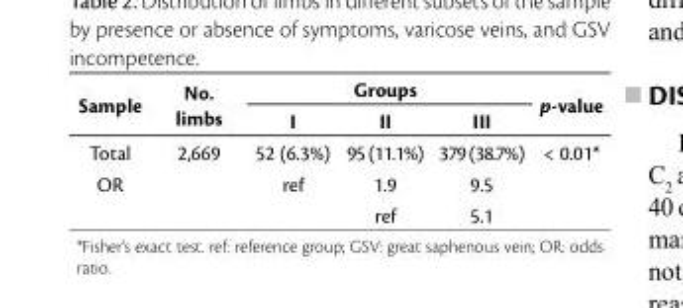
<table><thead><tr><td rowspan="2">Sample</td><td rowspan="2">No. limbs</td><td rowspan="2">I</td><td rowspan="2">Groups II</td><td rowspan="2">III</td><td rowspan="2">p-value</td></tr><tr></tr></thead><tbody><tr><td>Total</td><td>2,669</td><td>52 (6.3%)</td><td>95 (11.1%)</td><td>379 (38.7%)</td><td>&lt; 0.01*</td></tr><tr><td rowspan="2">OR</td><td></td><td>ref</td><td>1.9</td><td>9.5</td><td></td></tr><tr><td></td><td></td><td>ref</td><td>5.1</td><td></td></tr></tbody></table>